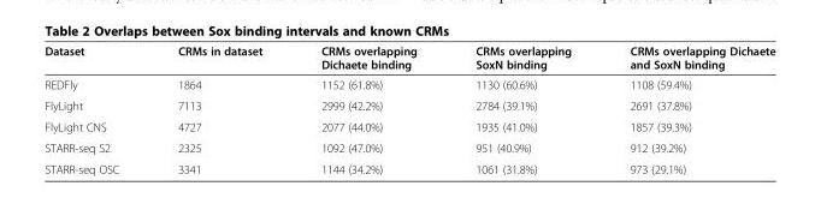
<table><thead><tr><td>Dataset</td><td>CRMs in dataset</td><td>CRMs overlapping Dichaete binding</td><td>CRMs overlapping SoxN binding</td><td>CRMs overlapping Dichaete and SoxN binding</td></tr></thead><tbody><tr><td>REDFly</td><td>1864</td><td>1152 (61.8%)</td><td>1130 (60.6%)</td><td>1108 (59.4%)</td></tr><tr><td>FlyLight</td><td>7113</td><td>2999 (42.2%)</td><td>2784 (39.1%)</td><td>2691 (37.8%)</td></tr><tr><td>FlyLight CNS</td><td>4727</td><td>2077 (44.0%)</td><td>1935 (41.0%)</td><td>1857 (39.3%)</td></tr><tr><td>STARR-seq S2</td><td>2325</td><td>1092 (47.0%)</td><td>951 (40.9%)</td><td>912 (39.2%)</td></tr><tr><td>STARR-seq OSC</td><td>3341</td><td>1144 (34.2%)</td><td>1061 (31.8%)</td><td>973 (29.1%)</td></tr></tbody></table>